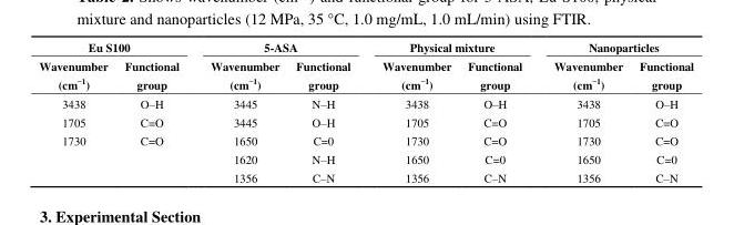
<table><thead><tr><td colspan="2">Eu S100</td><td colspan="2">5-ASA</td><td colspan="2">Physical mixture</td><td colspan="2">Nanoparticles</td></tr><tr><td>Wavenumber (cm<sup>−1</sup>)</td><td>Functional group</td><td>Wavenumber (cm<sup>−1</sup>)</td><td>Functional group</td><td>Wavenumber (cm<sup>−1</sup>)</td><td>Functional group</td><td>Wavenumber (cm<sup>−1</sup>)</td><td>Functional group</td></tr></thead><tbody><tr><td>3438</td><td>O–H</td><td>3445</td><td>N–H</td><td>3438</td><td>O–H</td><td>3438</td><td>O–H</td></tr><tr><td>1705</td><td>C=O</td><td>3445</td><td>O–H</td><td>1705</td><td>C=O</td><td>1705</td><td>C=O</td></tr><tr><td rowspan="3">1730</td><td>C=O</td><td>1650</td><td>C=0</td><td>1730</td><td>C=O</td><td>1730</td><td>C=O</td></tr><tr><td></td><td>1620</td><td>N–H</td><td>1650</td><td>C=0</td><td>1650</td><td>C=0</td></tr><tr><td></td><td>1356</td><td>C–N</td><td>1356</td><td>C–N</td><td>1356</td><td>C–N</td></tr></tbody></table>